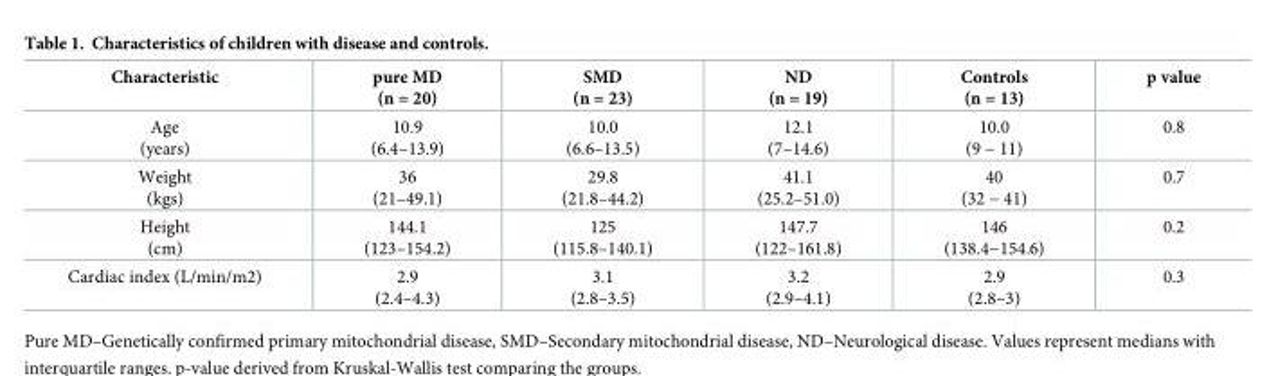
<table><thead><tr><td>Characteristic</td><td>pure MD (n = 20)</td><td>SMD (n = 23)</td><td>ND (n = 19)</td><td>Controls (n = 13)</td><td>p value</td></tr></thead><tbody><tr><td>Age (years)</td><td>10.9 (6.4–13.9)</td><td>10.0 (6.6–13.5)</td><td>12.1 (7–14.6)</td><td>10.0 (9 − 11)</td><td>0.8</td></tr><tr><td>Weight (kgs)</td><td>36 (21–49.1)</td><td>29.8 (21.8–44.2)</td><td>41.1 (25.2–51.0)</td><td>40 (32 − 41)</td><td>0.7</td></tr><tr><td>Height (cm)</td><td>144.1 (123–154.2)</td><td>125 (115.8–140.1)</td><td>147.7 (122–161.8)</td><td>146 (138.4−154.6)</td><td>0.2</td></tr><tr><td>Cardiac index (L/min/m2)</td><td>2.9 (2.4–4.3)</td><td>3.1 (2.8–3.5)</td><td>3.2 (2.9–4.1)</td><td>2.9 (2.8–3)</td><td>0.3</td></tr></tbody></table>